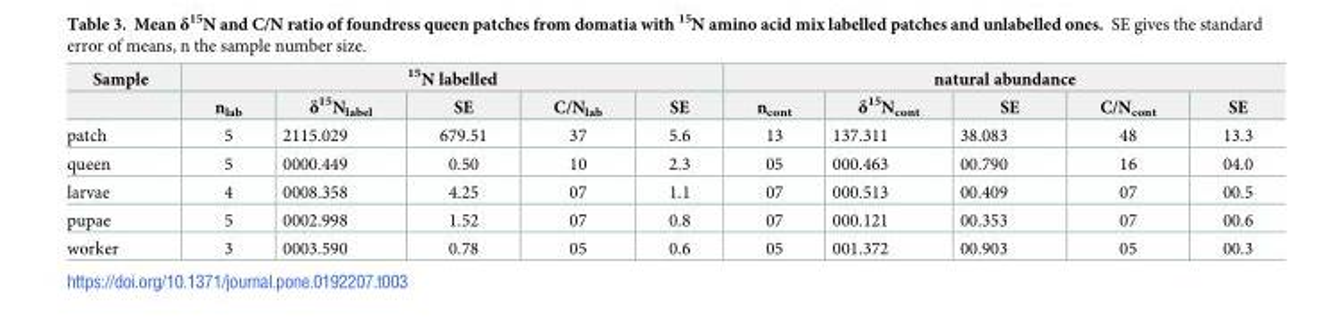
<table><thead><tr><td rowspan="2">Sample</td><td colspan="5"><sup>15</sup>N labelled</td><td colspan="5">natural abundance</td></tr><tr><td>n<sub>lab</sub></td><td>δ<sup>15</sup>N<sub>label</sub></td><td>SE</td><td>C/N<sub>lab</sub></td><td>SE</td><td>n<sub>cont</sub></td><td>δ<sup>15</sup>N<sub>cont</sub></td><td>SE</td><td>C/N<sub>cont</sub></td><td>SE</td></tr></thead><tbody><tr><td>patch</td><td>5</td><td>2115.029</td><td>679.51</td><td>37</td><td>5.6</td><td>13</td><td>137.311</td><td>38.083</td><td>48</td><td>13.3</td></tr><tr><td>queen</td><td>5</td><td>0000.449</td><td>0.50</td><td>10</td><td>2.3</td><td>05</td><td>000.463</td><td>00.790</td><td>16</td><td>04.0</td></tr><tr><td>larvae</td><td>4</td><td>0008.358</td><td>4.25</td><td>07</td><td>1.1</td><td>07</td><td>000.513</td><td>00.409</td><td>07</td><td>00.5</td></tr><tr><td>pupae</td><td>5</td><td>0002.998</td><td>1.52</td><td>07</td><td>0.8</td><td>07</td><td>000.121</td><td>00.353</td><td>07</td><td>00.6</td></tr><tr><td>worker</td><td>3</td><td>0003.590</td><td>0.78</td><td>05</td><td>0.6</td><td>05</td><td>001.372</td><td>00.903</td><td>05</td><td>00.3</td></tr></tbody></table>